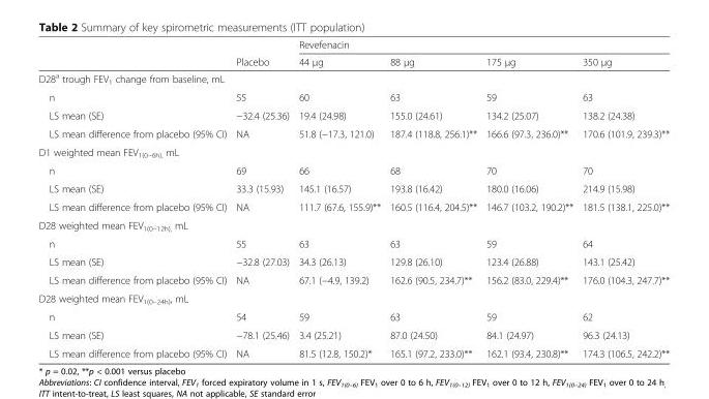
<table><thead><tr><td rowspan="2"></td><td rowspan="2">Placebo</td><td colspan="4">Revefenacin</td></tr><tr><td>44 μg</td><td>88 μg</td><td>175 μg</td><td>350 μg</td></tr></thead><tbody><tr><td colspan="6">D28<sup>a</sup> trough FEV<sub>1</sub> change from baseline, mL</td></tr><tr><td>n</td><td>55</td><td>60</td><td>63</td><td>59</td><td>63</td></tr><tr><td>LS mean (SE)</td><td>−32.4 (25.36)</td><td>19.4 (24.98)</td><td>155.0 (24.61)</td><td>134.2 (25.07)</td><td>138.2 (24.38)</td></tr><tr><td>LS mean difference from placebo (95% CI)</td><td>NA</td><td>51.8 (−17.3, 121.0)</td><td>187.4 (118.8, 256.1)**</td><td>166.6 (97.3, 236.0)**</td><td>170.6 (101.9, 239.3)**</td></tr><tr><td colspan="6">D1 weighted mean FEV<sub>1(0–6h),</sub> mL</td></tr><tr><td>n</td><td>69</td><td>66</td><td>68</td><td>70</td><td>70</td></tr><tr><td>LS mean (SE)</td><td>33.3 (15.93)</td><td>145.1 (16.57)</td><td>193.8 (16.42)</td><td>180.0 (16.06)</td><td>214.9 (15.98)</td></tr><tr><td>LS mean difference from placebo (95% CI)</td><td>NA</td><td>111.7 (67.6, 155.9)**</td><td>160.5 (116.4, 204.5)**</td><td>146.7 (103.2, 190.2)**</td><td>181.5 (138.1, 225.0)**</td></tr><tr><td colspan="6">D28 weighted mean FEV<sub>1(0–12h),</sub> mL</td></tr><tr><td>n</td><td>55</td><td>63</td><td>63</td><td>59</td><td>64</td></tr><tr><td>LS mean (SE)</td><td>−32.8 (27.03)</td><td>34.3 (26.13)</td><td>129.8 (26.10)</td><td>123.4 (26.88)</td><td>143.1 (25.42)</td></tr><tr><td>LS mean difference from placebo (95% CI)</td><td>NA</td><td>67.1 (−4.9, 139.2)</td><td>162.6 (90.5, 234.7)**</td><td>156.2 (83.0, 229.4)**</td><td>176.0 (104.3, 247.7)**</td></tr><tr><td colspan="6">D28 weighted mean FEV<sub>1(0–24h)</sub>, mL</td></tr><tr><td>n</td><td>54</td><td>59</td><td>63</td><td>59</td><td>62</td></tr><tr><td>LS mean (SE)</td><td>−78.1 (25.46)</td><td>3.4 (25.21)</td><td>87.0 (24.50)</td><td>84.1 (24.97)</td><td>96.3 (24.13)</td></tr><tr><td>LS mean difference from placebo (95% CI)</td><td>NA</td><td>81.5 (12.8, 150.2)*</td><td>165.1 (97.2, 233.0)**</td><td>162.1 (93.4, 230.8)**</td><td>174.3 (106.5, 242.2)**</td></tr></tbody></table>